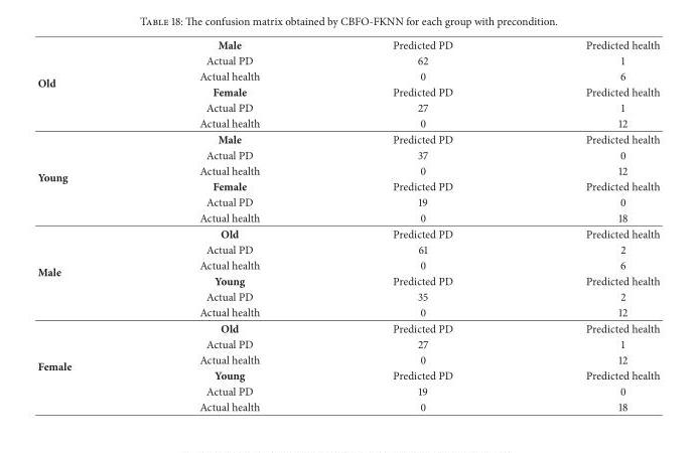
<table><tbody><tr><td rowspan="6">Old</td><td>Male</td><td>Predicted PD</td><td>Predicted health</td></tr><tr><td>Actual PD</td><td>62</td><td>1</td></tr><tr><td>Actual health</td><td>0</td><td>6</td></tr><tr><td>Female</td><td>Predicted PD</td><td>Predicted health</td></tr><tr><td>Actual PD</td><td>27</td><td>1</td></tr><tr><td>Actual health</td><td>0</td><td>12</td></tr><tr><td rowspan="6">Young</td><td>Male</td><td>Predicted PD</td><td>Predicted health</td></tr><tr><td>Actual PD</td><td>37</td><td>0</td></tr><tr><td>Actual health</td><td>0</td><td>12</td></tr><tr><td>Female</td><td>Predicted PD</td><td>Predicted health</td></tr><tr><td>Actual PD</td><td>19</td><td>0</td></tr><tr><td>Actual health</td><td>0</td><td>18</td></tr><tr><td rowspan="6">Male</td><td>Old</td><td>Predicted PD</td><td>Predicted health</td></tr><tr><td>Actual PD</td><td>61</td><td>2</td></tr><tr><td>Actual health</td><td>0</td><td>6</td></tr><tr><td>Young</td><td>Predicted PD</td><td>Predicted health</td></tr><tr><td>Actual PD</td><td>35</td><td>2</td></tr><tr><td>Actual health</td><td>0</td><td>12</td></tr><tr><td rowspan="6">Female</td><td>Old</td><td>Predicted PD</td><td>Predicted health</td></tr><tr><td>Actual PD</td><td>27</td><td>1</td></tr><tr><td>Actual health</td><td>0</td><td>12</td></tr><tr><td>Young</td><td>Predicted PD</td><td>Predicted health</td></tr><tr><td>Actual PD</td><td>19</td><td>0</td></tr><tr><td>Actual health</td><td>0</td><td>18</td></tr></tbody></table>